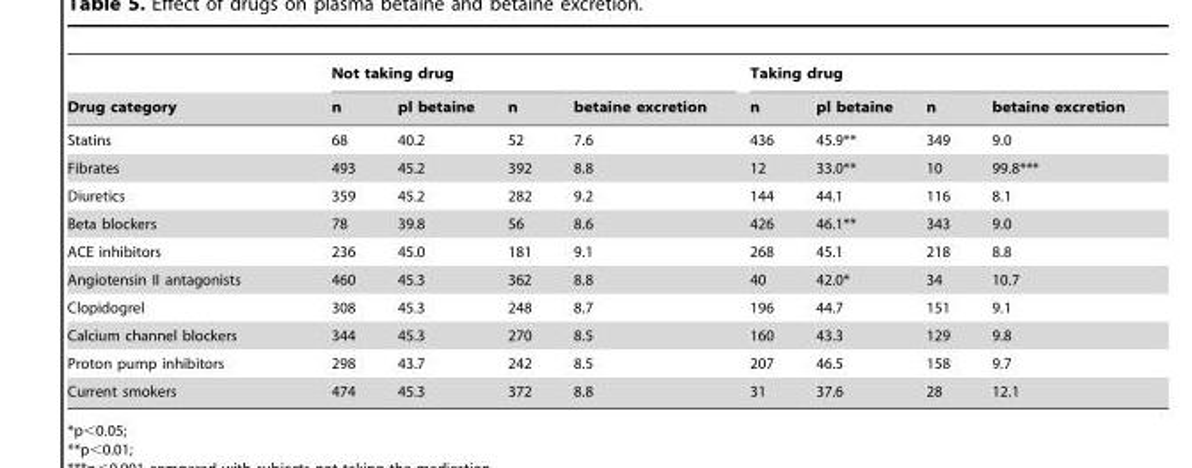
<table><thead><tr><td rowspan="2">Drug category</td><td colspan="4">Not taking drug</td><td colspan="4">Taking drug</td></tr><tr><td>n</td><td>pl betaine</td><td>n</td><td>betaine excretion</td><td>n</td><td>pl betaine</td><td>n</td><td>betaine excretion</td></tr></thead><tbody><tr><td>Statins</td><td>68</td><td>40.2</td><td>52</td><td>7.6</td><td>436</td><td>45.9**</td><td>349</td><td>9.0</td></tr><tr><td>Fibrates</td><td>493</td><td>45.2</td><td>392</td><td>8.8</td><td>12</td><td>33.0**</td><td>10</td><td>99.8***</td></tr><tr><td>Diuretics</td><td>359</td><td>45.2</td><td>282</td><td>9.2</td><td>144</td><td>44.1</td><td>116</td><td>8.1</td></tr><tr><td>Beta blockers</td><td>78</td><td>39.8</td><td>56</td><td>8.6</td><td>426</td><td>46.1**</td><td>343</td><td>9.0</td></tr><tr><td>ACE inhibitors</td><td>236</td><td>45.0</td><td>181</td><td>9.1</td><td>268</td><td>45.1</td><td>218</td><td>8.8</td></tr><tr><td>Angiotensin II antagonists</td><td>460</td><td>45.3</td><td>362</td><td>8.8</td><td>40</td><td>42.0*</td><td>34</td><td>10.7</td></tr><tr><td>Clopidogrel</td><td>308</td><td>45.3</td><td>248</td><td>8.7</td><td>196</td><td>44.7</td><td>151</td><td>9.1</td></tr><tr><td>Calcium channel blockers</td><td>344</td><td>45.3</td><td>270</td><td>8.5</td><td>160</td><td>43.3</td><td>129</td><td>9.8</td></tr><tr><td>Proton pump inhibitors</td><td>298</td><td>43.7</td><td>242</td><td>8.5</td><td>207</td><td>46.5</td><td>158</td><td>9.7</td></tr><tr><td>Current smokers</td><td>474</td><td>45.3</td><td>372</td><td>8.8</td><td>31</td><td>37.6</td><td>28</td><td>12.1</td></tr></tbody></table>